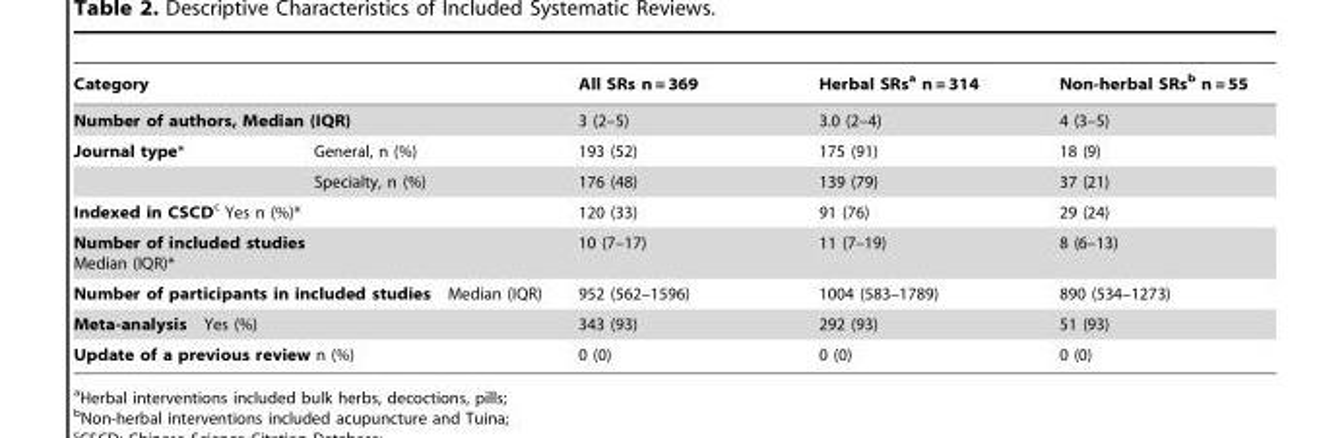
<table><thead><tr><td rowspan="2" colspan="2">Category Number of authors, Median (IQR)</td><td rowspan="3">All SRs n = 369 3 (2–5) 193 (52)</td><td rowspan="3">Herbal SRs<sup>a</sup> n = 314 3.0 (2–4) 175 (91)</td><td rowspan="3">Non-herbal SRs<sup>b</sup> n = 55 4 (3–5) 18 (9)</td></tr><tr></tr><tr><td>Journal type*</td><td>General, n (%)</td></tr></thead><tbody><tr><td></td><td>Specialty, n (%)</td><td>176 (48)</td><td>139 (79)</td><td>37 (21)</td></tr><tr><td colspan="2">Indexed in CSCDc Yes n (%)*</td><td>120 (33)</td><td>91 (76)</td><td>29 (24)</td></tr><tr><td colspan="2">Number of included studies Median (IQR)*</td><td>10 (7–17)</td><td>11 (7–19)</td><td>8 (6–13)</td></tr><tr><td colspan="2">Number of participants in included studies Median (IQR)</td><td>952 (562–1596)</td><td>1004 (583–1789)</td><td>890 (534–1273)</td></tr><tr><td colspan="2">Meta-analysis Yes (%)</td><td>343 (93)</td><td>292 (93)</td><td>51 (93)</td></tr><tr><td colspan="2">Update of a previous review n (%)</td><td>0 (0)</td><td>0 (0)</td><td>0 (0)</td></tr></tbody></table>